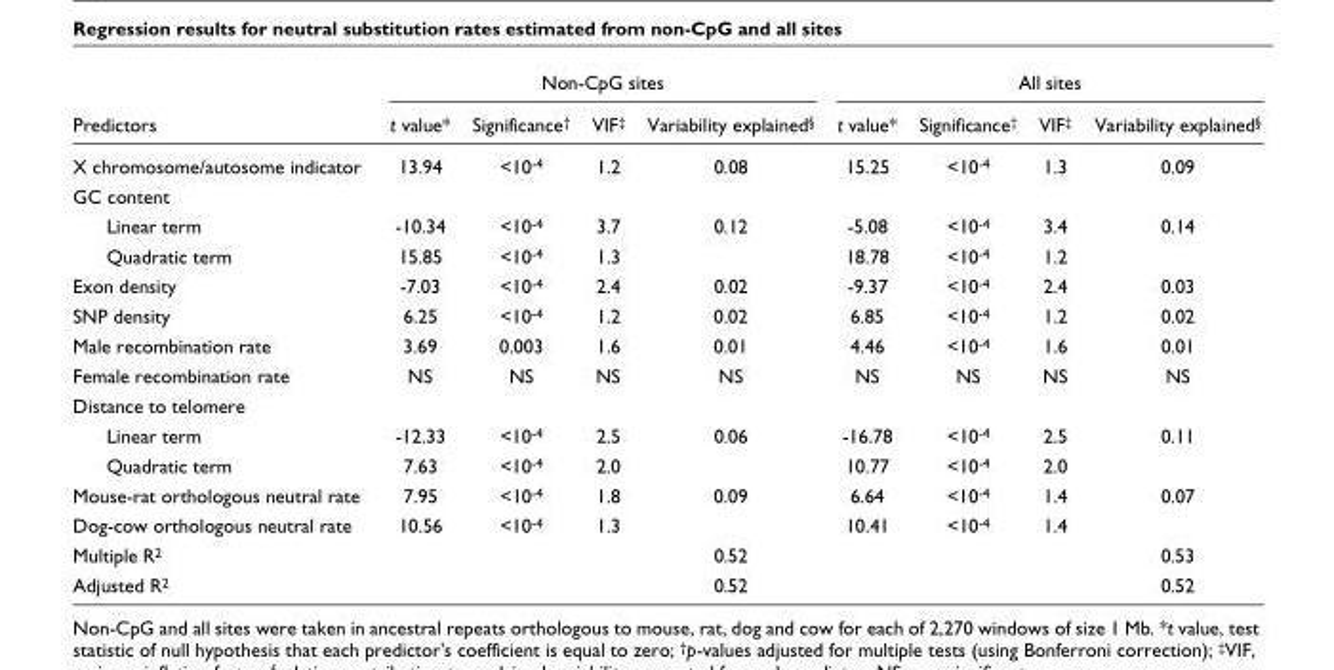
<table><thead><tr><td rowspan="2">Predictors</td><td colspan="4">Non-CpG sites</td><td colspan="4">All sites</td></tr><tr><td>t value*</td><td>Significance<sup>†</sup></td><td>VIF<sup>‡</sup></td><td>Variability explained<sup>§</sup></td><td>t value*</td><td>Significance<sup>†</sup></td><td>VIF<sup>‡</sup></td><td>Variability explained<sup>§</sup></td></tr></thead><tbody><tr><td>X chromosome/autosome indicator</td><td>13.94</td><td>&lt;10<sup>-4</sup></td><td>1.2</td><td>0.08</td><td>15.25</td><td>&lt;10<sup>-4</sup></td><td>1.3</td><td>0.09</td></tr><tr><td colspan="9">GC content</td></tr><tr><td>Linear term</td><td>-10.34</td><td>&lt;10<sup>-4</sup></td><td>3.7</td><td>0.12</td><td>-5.08</td><td>&lt;10<sup>-4</sup></td><td>3.4</td><td>0.14</td></tr><tr><td>Quadratic term</td><td>15.85</td><td>&lt;10<sup>-4</sup></td><td>1.3</td><td></td><td>18.78</td><td>&lt;10<sup>-4</sup></td><td>1.2</td><td></td></tr><tr><td>Exon density</td><td>-7.03</td><td>&lt;10<sup>-4</sup></td><td>2.4</td><td>0.02</td><td>-9.37</td><td>&lt;10<sup>-4</sup></td><td>2.4</td><td>0.03</td></tr><tr><td>SNP density</td><td>6.25</td><td>&lt;10<sup>-4</sup></td><td>1.2</td><td>0.02</td><td>6.85</td><td>&lt;10<sup>-4</sup></td><td>1.2</td><td>0.02</td></tr><tr><td>Male recombination rate</td><td>3.69</td><td>0.003</td><td>1.6</td><td>0.01</td><td>4.46</td><td>&lt;10<sup>-4</sup></td><td>1.6</td><td>0.01</td></tr><tr><td>Female recombination rate</td><td>NS</td><td>NS</td><td>NS</td><td>NS</td><td>NS</td><td>NS</td><td>NS</td><td>NS</td></tr><tr><td colspan="9">Distance to telomere</td></tr><tr><td>Linear term</td><td>-12.33</td><td>&lt;10<sup>-4</sup></td><td>2.5</td><td>0.06</td><td>-16.78</td><td>&lt;10<sup>-4</sup></td><td>2.5</td><td>0.11</td></tr><tr><td>Quadratic term</td><td>7.63</td><td>&lt;10<sup>-4</sup></td><td>2.0</td><td></td><td>10.77</td><td>&lt;10<sup>-4</sup></td><td>2.0</td><td></td></tr><tr><td>Mouse-rat orthologous neutral rate</td><td>7.95</td><td>&lt;10<sup>-4</sup></td><td>1.8</td><td>0.09</td><td>6.64</td><td>&lt;10<sup>-4</sup></td><td>1.4</td><td>0.07</td></tr><tr><td>Dog-cow orthologous neutral rate</td><td>10.56</td><td>&lt;10<sup>-4</sup></td><td>1.3</td><td></td><td>10.41</td><td>&lt;10<sup>-4</sup></td><td>1.4</td><td></td></tr><tr><td>Multiple R<sup>2</sup></td><td></td><td></td><td></td><td>0.52</td><td></td><td></td><td></td><td>0.53</td></tr><tr><td>Adjusted R<sup>2</sup></td><td></td><td></td><td></td><td>0.52</td><td></td><td></td><td></td><td>0.52</td></tr></tbody></table>